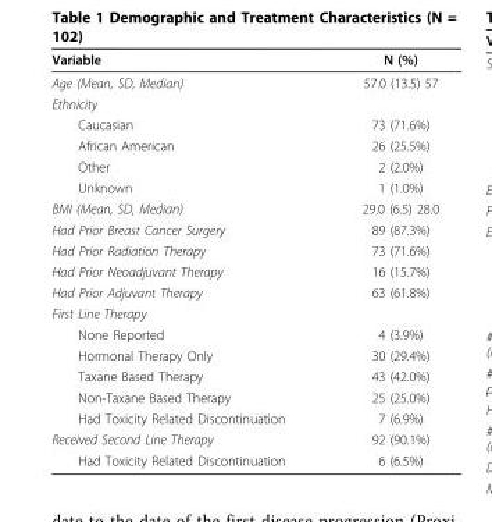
<table><thead><tr><td>Variable</td><td>N (%)</td></tr></thead><tbody><tr><td>Age (Mean, SD, Median)</td><td>57.0 (13.5) 57</td></tr><tr><td colspan="2">Ethnicity</td></tr><tr><td>Caucasian</td><td>73 (71.6%)</td></tr><tr><td>African American</td><td>26 (25.5%)</td></tr><tr><td>Other</td><td>2 (2.0%)</td></tr><tr><td>Unknown</td><td>1 (1.0%)</td></tr><tr><td>BMI (Mean, SD, Median)</td><td>29.0 (6.5) 28.0</td></tr><tr><td>Had Prior Breast Cancer Surgery</td><td>89 (87.3%)</td></tr><tr><td>Had Prior Radiation Therapy</td><td>73 (71.6%)</td></tr><tr><td>Had Prior Neoadjuvant Therapy</td><td>16 (15.7%)</td></tr><tr><td>Had Prior Adjuvant Therapy</td><td>63 (61.8%)</td></tr><tr><td colspan="2">First Line Therapy</td></tr><tr><td>None Reported</td><td>4 (3.9%)</td></tr><tr><td>Hormonal Therapy Only</td><td>30 (29.4%)</td></tr><tr><td>Taxane Based Therapy</td><td>43 (42.0%)</td></tr><tr><td>Non-Taxane Based Therapy</td><td>25 (25.0%)</td></tr><tr><td>Had Toxicity Related Discontinuation</td><td>7 (6.9%)</td></tr><tr><td>Received Second Line Therapy</td><td>92 (90.1%)</td></tr><tr><td>Had Toxicity Related Discontinuation</td><td>6 (6.5%)</td></tr></tbody></table>